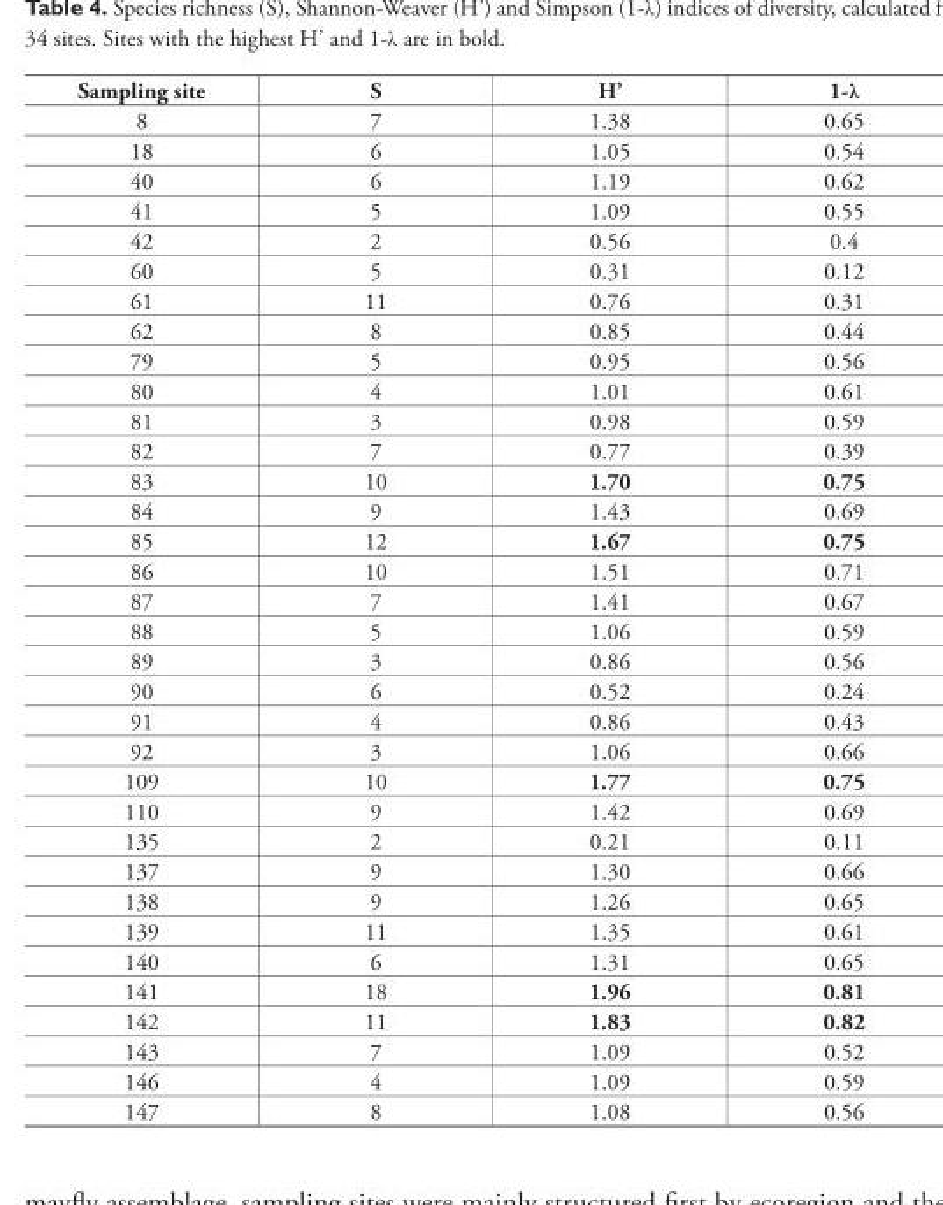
<table><thead><tr><td>Sampling site</td><td>S</td><td>H’</td><td>1-λ</td></tr></thead><tbody><tr><td>8</td><td>7</td><td>1.38</td><td>0.65</td></tr><tr><td>18</td><td>6</td><td>1.05</td><td>0.54</td></tr><tr><td>40</td><td>6</td><td>1.19</td><td>0.62</td></tr><tr><td>41</td><td>5</td><td>1.09</td><td>0.55</td></tr><tr><td>42</td><td>2</td><td>0.56</td><td>0.4</td></tr><tr><td>60</td><td>5</td><td>0.31</td><td>0.12</td></tr><tr><td>61</td><td>11</td><td>0.76</td><td>0.31</td></tr><tr><td>62</td><td>8</td><td>0.85</td><td>0.44</td></tr><tr><td>79</td><td>5</td><td>0.95</td><td>0.56</td></tr><tr><td>80</td><td>4</td><td>1.01</td><td>0.61</td></tr><tr><td>81</td><td>3</td><td>0.98</td><td>0.59</td></tr><tr><td>82</td><td>7</td><td>0.77</td><td>0.39</td></tr><tr><td>83</td><td>10</td><td>1.70</td><td>0.75</td></tr><tr><td>84</td><td>9</td><td>1.43</td><td>0.69</td></tr><tr><td>85</td><td>12</td><td>1.67</td><td>0.75</td></tr><tr><td>86</td><td>10</td><td>1.51</td><td>0.71</td></tr><tr><td>87</td><td>7</td><td>1.41</td><td>0.67</td></tr><tr><td>88</td><td>5</td><td>1.06</td><td>0.59</td></tr><tr><td>89</td><td>3</td><td>0.86</td><td>0.56</td></tr><tr><td>90</td><td>6</td><td>0.52</td><td>0.24</td></tr><tr><td>91</td><td>4</td><td>0.86</td><td>0.43</td></tr><tr><td>92</td><td>3</td><td>1.06</td><td>0.66</td></tr><tr><td>109</td><td>10</td><td>1.77</td><td>0.75</td></tr><tr><td>110</td><td>9</td><td>1.42</td><td>0.69</td></tr><tr><td>135</td><td>2</td><td>0.21</td><td>0.11</td></tr><tr><td>137</td><td>9</td><td>1.30</td><td>0.66</td></tr><tr><td>138</td><td>9</td><td>1.26</td><td>0.65</td></tr><tr><td>139</td><td>11</td><td>1.35</td><td>0.61</td></tr><tr><td>140</td><td>6</td><td>1.31</td><td>0.65</td></tr><tr><td>141</td><td>18</td><td>1.96</td><td>0.81</td></tr><tr><td>142</td><td>11</td><td>1.83</td><td>0.82</td></tr><tr><td>143</td><td>7</td><td>1.09</td><td>0.52</td></tr><tr><td>146</td><td>4</td><td>1.09</td><td>0.59</td></tr><tr><td>147</td><td>8</td><td>1.08</td><td>0.56</td></tr></tbody></table>